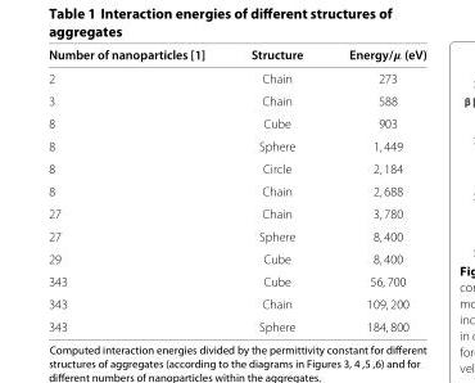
<table><thead><tr><td>Number of nanoparticles [1]</td><td>Structure</td><td>Energy/μ (eV)</td></tr></thead><tbody><tr><td>2</td><td>Chain</td><td>273</td></tr><tr><td>3</td><td>Chain</td><td>588</td></tr><tr><td>8</td><td>Cube</td><td>903</td></tr><tr><td>8</td><td>Sphere</td><td>1, 449</td></tr><tr><td>8</td><td>Circle</td><td>2, 184</td></tr><tr><td>8</td><td>Chain</td><td>2, 688</td></tr><tr><td>27</td><td>Chain</td><td>3, 780</td></tr><tr><td>27</td><td>Sphere</td><td>8, 400</td></tr><tr><td>29</td><td>Cube</td><td>8, 400</td></tr><tr><td>343</td><td>Cube</td><td>56, 700</td></tr><tr><td>343</td><td>Chain</td><td>109, 200</td></tr><tr><td>343</td><td>Sphere</td><td>184, 800</td></tr></tbody></table>